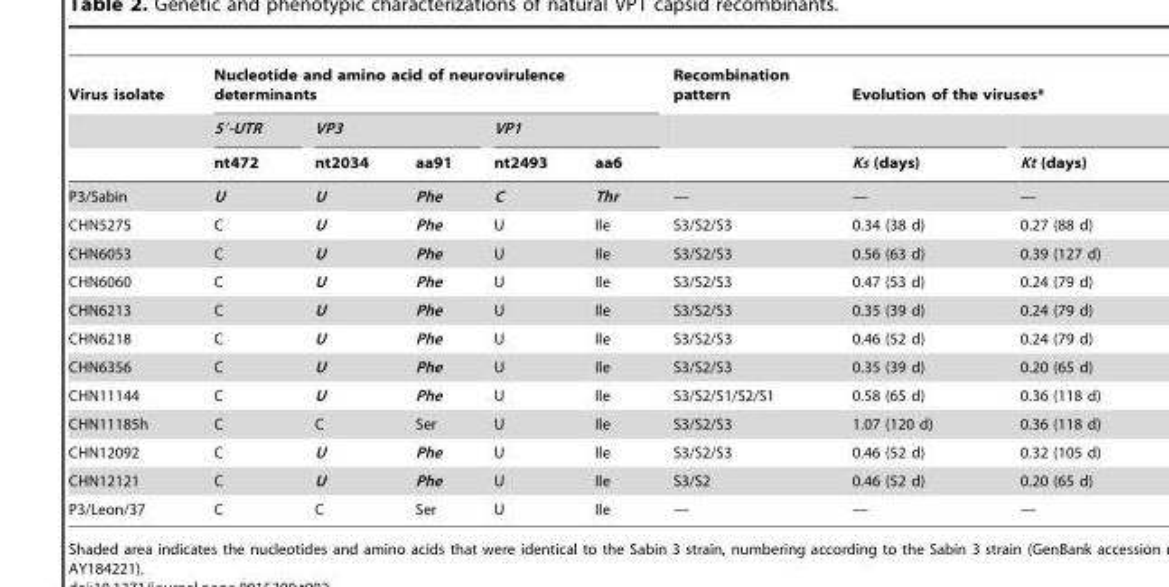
<table><thead><tr><td rowspan="3">Virus isolate</td><td colspan="5">Nucleotide and amino acid of neurovirulence determinants</td><td rowspan="3">Recombination pattern</td><td colspan="2">Evolution of the viruses*</td></tr><tr><td rowspan="2">5′-UTR nt472</td><td colspan="2">VP3</td><td colspan="2">VP1</td><td rowspan="2">Ks (days)</td><td rowspan="2">Kt (days)</td></tr><tr><td>nt2034</td><td>aa91</td><td>nt2493</td><td>aa6</td></tr></thead><tbody><tr><td>P3/Sabin</td><td>U</td><td>U</td><td>Phe</td><td>C</td><td>Thr</td><td>—</td><td>—</td><td>—</td></tr><tr><td>CHN5275</td><td>C</td><td>U</td><td>Phe</td><td>U</td><td>Ile</td><td>S3/S2/S3</td><td>0.34 (38 d)</td><td>0.27 (88 d)</td></tr><tr><td>CHN6053</td><td>C</td><td>U</td><td>Phe</td><td>U</td><td>Ile</td><td>S3/S2/S3</td><td>0.56 (63 d)</td><td>0.39 (127 d)</td></tr><tr><td>CHN6060</td><td>C</td><td>U</td><td>Phe</td><td>U</td><td>Ile</td><td>S3/S2/S3</td><td>0.47 (53 d)</td><td>0.24 (79 d)</td></tr><tr><td>CHN6213</td><td>C</td><td>U</td><td>Phe</td><td>U</td><td>Ile</td><td>S3/S2/S3</td><td>0.35 (39 d)</td><td>0.24 (79 d)</td></tr><tr><td>CHN6218</td><td>C</td><td>U</td><td>Phe</td><td>U</td><td>Ile</td><td>S3/S2/S3</td><td>0.46 (52 d)</td><td>0.24 (79 d)</td></tr><tr><td>CHN6356</td><td>C</td><td>U</td><td>Phe</td><td>U</td><td>Ile</td><td>S3/S2/S3</td><td>0.35 (39 d)</td><td>0.20 (65 d)</td></tr><tr><td>CHN11144</td><td>C</td><td>U</td><td>Phe</td><td>U</td><td>Ile</td><td>S3/S2/S1/S2/S1</td><td>0.58 (65 d)</td><td>0.36 (118 d)</td></tr><tr><td>CHN11185h</td><td>C</td><td>C</td><td>Ser</td><td>U</td><td>Ile</td><td>S3/S2/S3</td><td>1.07 (120 d)</td><td>0.36 (118 d)</td></tr><tr><td>CHN12092</td><td>C</td><td>U</td><td>Phe</td><td>U</td><td>Ile</td><td>S3/S2/S3</td><td>0.46 (52 d)</td><td>0.32 (105 d)</td></tr><tr><td>CHN12121</td><td>C</td><td>U</td><td>Phe</td><td>U</td><td>Ile</td><td>S3/S2</td><td>0.46 (52 d)</td><td>0.20 (65 d)</td></tr><tr><td>P3/Leon/37</td><td>C</td><td>C</td><td>Ser</td><td>U</td><td>Ile</td><td>—</td><td>—</td><td>—</td></tr></tbody></table>